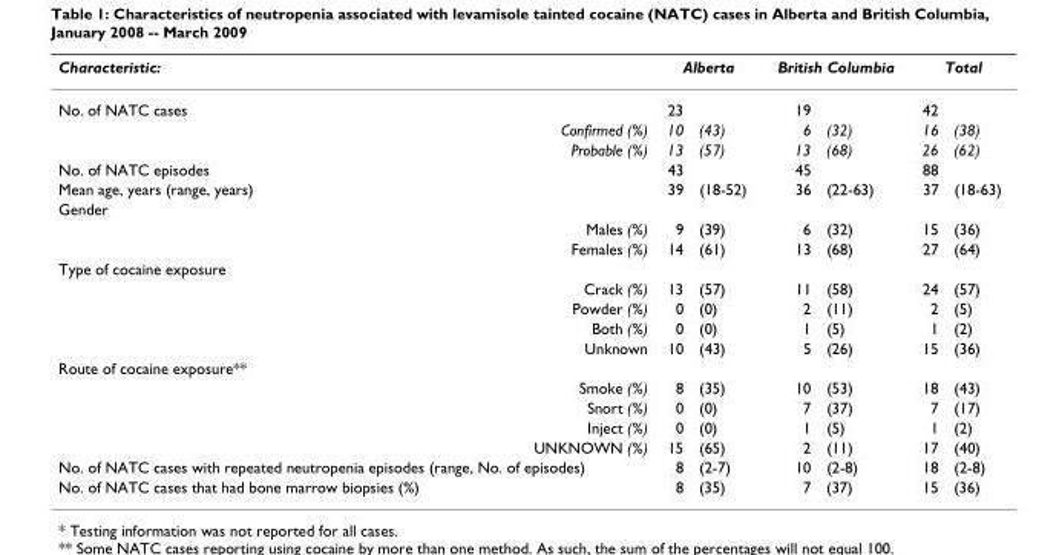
<table><thead><tr><td rowspan="2">Characteristic: No. of NATC cases</td><td colspan="2">Alberta</td><td colspan="2">British Columbia</td><td colspan="2">Total</td></tr><tr><td>23</td><td></td><td>19</td><td></td><td>42</td><td></td></tr></thead><tbody><tr><td>Confirmed (%)</td><td>10</td><td>(43)</td><td>6</td><td>(32)</td><td>16</td><td>(38)</td></tr><tr><td>Probable (%)</td><td>13</td><td>(57)</td><td>13</td><td>(68)</td><td>26</td><td>(62)</td></tr><tr><td>No. of NATC episodes</td><td>43</td><td></td><td>45</td><td></td><td>88</td><td></td></tr><tr><td>Mean age, years (range, years)</td><td>39</td><td>(18-52)</td><td>36</td><td>(22-63)</td><td>37</td><td>(18-63)</td></tr><tr><td colspan="7">Gender</td></tr><tr><td>Males (%)</td><td>9</td><td>(39)</td><td>6</td><td>(32)</td><td>15</td><td>(36)</td></tr><tr><td>Females (%)</td><td>14</td><td>(61)</td><td>13</td><td>(68)</td><td>27</td><td>(64)</td></tr><tr><td colspan="7">Type of cocaine exposure</td></tr><tr><td>Crack (%)</td><td>13</td><td>(57)</td><td>11</td><td>(58)</td><td>24</td><td>(57)</td></tr><tr><td>Powder (%)</td><td>0</td><td>(0)</td><td>2</td><td>(11)</td><td>2</td><td>(5)</td></tr><tr><td>Both (%)</td><td>0</td><td>(0)</td><td>1</td><td>(5)</td><td>1</td><td>(2)</td></tr><tr><td>Unknown</td><td>10</td><td>(43)</td><td>5</td><td>(26)</td><td>15</td><td>(36)</td></tr><tr><td colspan="7">Route of cocaine exposure**</td></tr><tr><td>Smoke (%)</td><td>8</td><td>(35)</td><td>10</td><td>(53)</td><td>18</td><td>(43)</td></tr><tr><td>Snort (%)</td><td>0</td><td>(0)</td><td>7</td><td>(37)</td><td>7</td><td>(17)</td></tr><tr><td>Inject (%)</td><td>0</td><td>(0)</td><td>1</td><td>(5)</td><td>1</td><td>(2)</td></tr><tr><td>UNKNOWN (%)</td><td>15</td><td>(65)</td><td>2</td><td>(11)</td><td>17</td><td>(40)</td></tr><tr><td>No. of NATC cases with repeated neutropenia episodes (range, No. of episodes)</td><td>8</td><td>(2-7)</td><td>10</td><td>(2-8)</td><td>18</td><td>(2-8)</td></tr><tr><td>No. of NATC cases that had bone marrow biopsies (%)</td><td>8</td><td>(35)</td><td>7</td><td>(37)</td><td>15</td><td>(36)</td></tr></tbody></table>